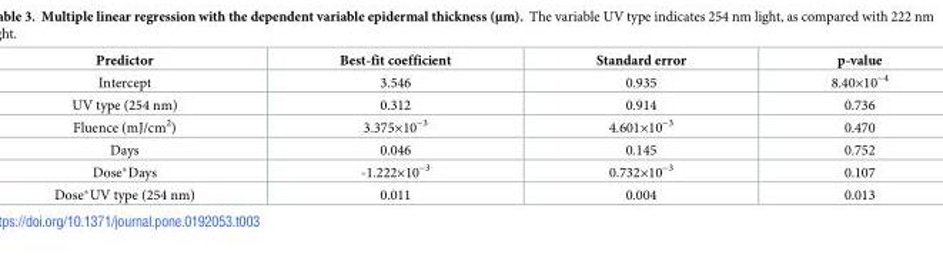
<table><thead><tr><td>Predictor</td><td>Best-fit coefficient</td><td>Standard error</td><td>p-value</td></tr></thead><tbody><tr><td>Intercept</td><td>3.546</td><td>0.935</td><td>8.40×10<sup>−4</sup></td></tr><tr><td>UV type (254 nm)</td><td>0.312</td><td>0.914</td><td>0.736</td></tr><tr><td>Fluence (mJ/cm<sup>2</sup>)</td><td>3.375×10<sup>−3</sup></td><td>4.601×10<sup>−3</sup></td><td>0.470</td></tr><tr><td>Days</td><td>0.046</td><td>0.145</td><td>0.752</td></tr><tr><td>Dose*Days</td><td>-1.222×10<sup>−3</sup></td><td>0.732×10<sup>−3</sup></td><td>0.107</td></tr><tr><td>Dose*UV type (254 nm)</td><td>0.011</td><td>0.004</td><td>0.013</td></tr></tbody></table>